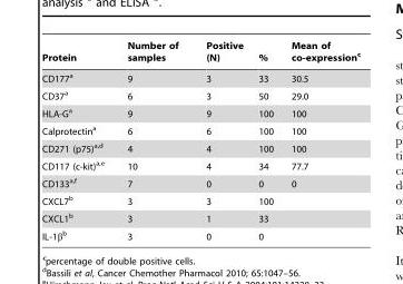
<table><thead><tr><td>Protein</td><td>Number of samples</td><td>Positive (N)</td><td>%</td><td>Mean of co-expression<sup>c</sup></td></tr></thead><tbody><tr><td>CD177<sup>a</sup></td><td>9</td><td>3</td><td>33</td><td>30.5</td></tr><tr><td>CD37<sup>a</sup></td><td>6</td><td>3</td><td>50</td><td>29.0</td></tr><tr><td>HLA-G<sup>a</sup></td><td>9</td><td>9</td><td>100</td><td>100</td></tr><tr><td>Calprotectin<sup>a</sup></td><td>6</td><td>6</td><td>100</td><td>100</td></tr><tr><td>CD271 (p75)<sup>a,</sup>d</td><td>4</td><td>4</td><td>100</td><td>100</td></tr><tr><td>CD117 (c-kit)<sup>a,</sup>e</td><td>10</td><td>4</td><td>34</td><td>77.7</td></tr><tr><td>CD133<sup>a,</sup>f</td><td>7</td><td>0</td><td>0</td><td>0</td></tr><tr><td>CXCL7<sup>b</sup></td><td>3</td><td>3</td><td>100</td><td></td></tr><tr><td>CXCL1<sup>b</sup></td><td>3</td><td>1</td><td>33</td><td></td></tr><tr><td>IL-1β<sup>b</sup></td><td>3</td><td>0</td><td>0</td><td></td></tr></tbody></table>